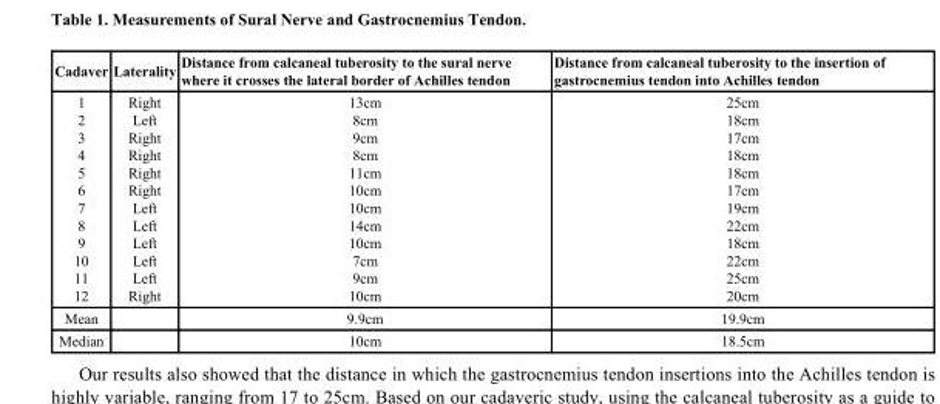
<table><thead><tr><td>Cadaver</td><td>Laterality</td><td>Distance from calcaneal tuberosity to the sural nerve where it crosses the lateral border of Achilles tendon</td><td>Distance from calcaneal tuberosity to the insertion of gastrocnemius tendon into Achilles tendon</td></tr></thead><tbody><tr><td>1 2 3 4 5 6 7 8 9 10 11 12</td><td>Right Left Right Right Right Right Left Left Left Left Left Right</td><td>13cm 8cm 9cm 8cm 11cm 10cm 10cm 14cm 10cm 7cm 9cm 10cm</td><td>25cm 18cm 17cm 18cm 18cm 17cm 19cm 22cm 18cm 22cm 25cm 20cm</td></tr><tr><td>Mean</td><td></td><td>9.9cm</td><td>19.9cm</td></tr><tr><td>Median</td><td></td><td>10cm</td><td>18.5cm</td></tr></tbody></table>